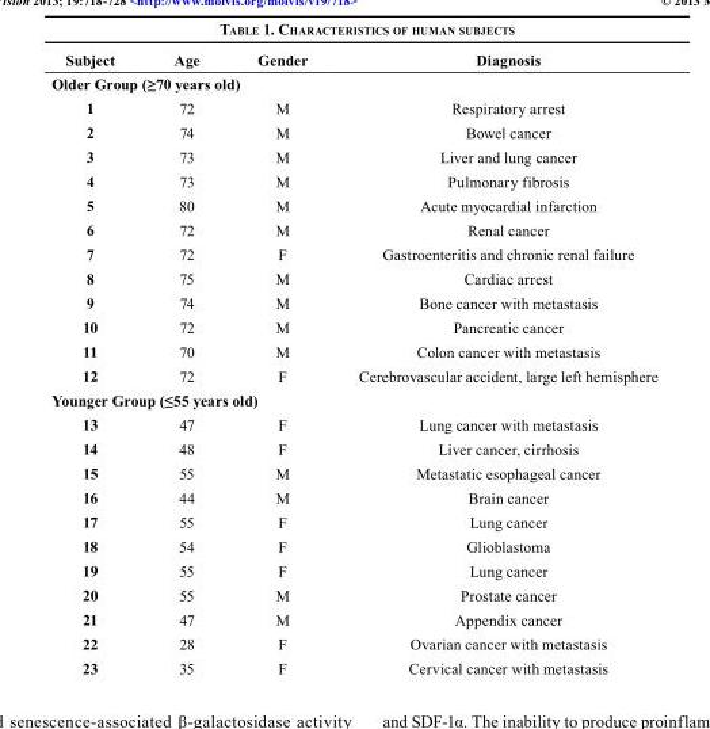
<table><thead><tr><td>Subject</td><td>Age</td><td>Gender</td><td>Diagnosis</td></tr></thead><tbody><tr><td colspan="4">Older Group (≥70 years old)</td></tr><tr><td>1</td><td>72</td><td>M</td><td>Respiratory arrest</td></tr><tr><td>2</td><td>74</td><td>M</td><td>Bowel cancer</td></tr><tr><td>3</td><td>73</td><td>M</td><td>Liver and lung cancer</td></tr><tr><td>4</td><td>73</td><td>M</td><td>Pulmonary fibrosis</td></tr><tr><td>5</td><td>80</td><td>M</td><td>Acute myocardial infarction</td></tr><tr><td>6</td><td>72</td><td>M</td><td>Renal cancer</td></tr><tr><td>7</td><td>72</td><td>F</td><td>Gastroenteritis and chronic renal failure</td></tr><tr><td>8</td><td>75</td><td>M</td><td>Cardiac arrest</td></tr><tr><td>9</td><td>74</td><td>M</td><td>Bone cancer with metastasis</td></tr><tr><td>10</td><td>72</td><td>M</td><td>Pancreatic cancer</td></tr><tr><td>11</td><td>70</td><td>M</td><td>Colon cancer with metastasis</td></tr><tr><td>12</td><td>72</td><td>F</td><td>Cerebrovascular accident, large left hemisphere</td></tr><tr><td colspan="4">Younger Group (≤55 years old)</td></tr><tr><td>13</td><td>47</td><td>F</td><td>Lung cancer with metastasis</td></tr><tr><td>14</td><td>48</td><td>F</td><td>Liver cancer, cirrhosis</td></tr><tr><td>15</td><td>55</td><td>M</td><td>Metastatic esophageal cancer</td></tr><tr><td>16</td><td>44</td><td>M</td><td>Brain cancer</td></tr><tr><td>17</td><td>55</td><td>F</td><td>Lung cancer</td></tr><tr><td>18</td><td>54</td><td>F</td><td>Glioblastoma</td></tr><tr><td>19</td><td>55</td><td>F</td><td>Lung cancer</td></tr><tr><td>20</td><td>55</td><td>M</td><td>Prostate cancer</td></tr><tr><td>21</td><td>47</td><td>M</td><td>Appendix cancer</td></tr><tr><td>22</td><td>28</td><td>F</td><td>Ovarian cancer with metastasis</td></tr><tr><td>23</td><td>35</td><td>F</td><td>Cervical cancer with metastasis</td></tr></tbody></table>